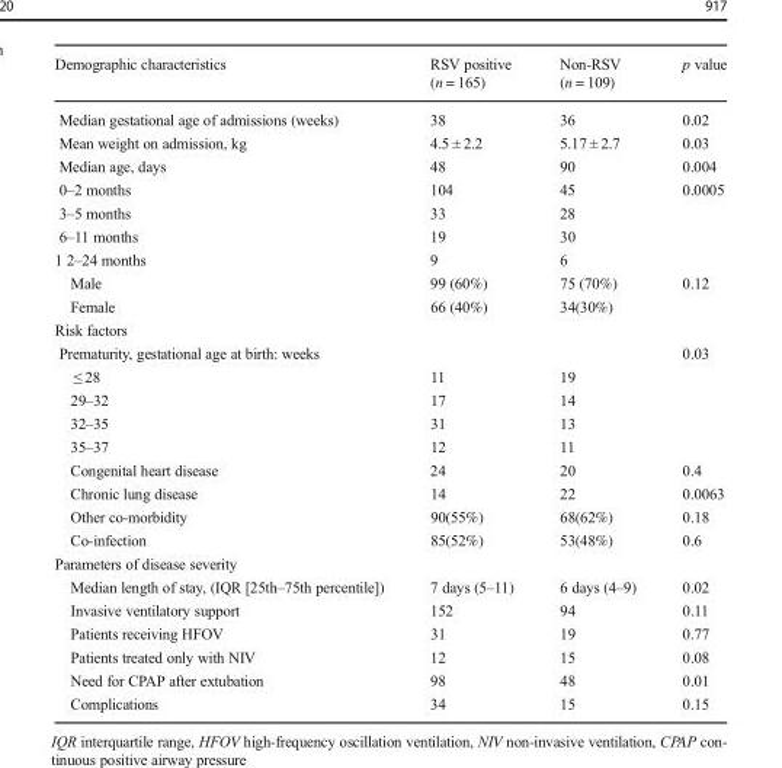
<table><thead><tr><td>Demographic characteristics</td><td>RSV positive (n = 165)</td><td>Non-RSV (n = 109)</td><td>p value</td></tr></thead><tbody><tr><td>Median gestational age of admissions (weeks)</td><td>38</td><td>36</td><td>0.02</td></tr><tr><td>Mean weight on admission, kg</td><td>4.5 ± 2.2</td><td>5.17 ± 2.7</td><td>0.03</td></tr><tr><td>Median age, days</td><td>48</td><td>90</td><td>0.004</td></tr><tr><td>0–2 months</td><td>104</td><td>45</td><td>0.0005</td></tr><tr><td>3–5 months</td><td>33</td><td>28</td><td></td></tr><tr><td>6–11 months</td><td>19</td><td>30</td><td></td></tr><tr><td>1 2–24 months</td><td>9</td><td>6</td><td></td></tr><tr><td>Male</td><td>99 (60%)</td><td>75 (70%)</td><td>0.12</td></tr><tr><td>Female</td><td>66 (40%)</td><td>34(30%)</td><td></td></tr><tr><td colspan="4">Risk factors</td></tr><tr><td>Prematurity, gestational age at birth: weeks</td><td></td><td></td><td>0.03</td></tr><tr><td>≤ 28</td><td>11</td><td>19</td><td></td></tr><tr><td>29–32</td><td>17</td><td>14</td><td></td></tr><tr><td>32–35</td><td>31</td><td>13</td><td></td></tr><tr><td>35–37</td><td>12</td><td>11</td><td></td></tr><tr><td>Congenital heart disease</td><td>24</td><td>20</td><td>0.4</td></tr><tr><td>Chronic lung disease</td><td>14</td><td>22</td><td>0.0063</td></tr><tr><td>Other co-morbidity</td><td>90(55%)</td><td>68(62%)</td><td>0.18</td></tr><tr><td>Co-infection</td><td>85(52%)</td><td>53(48%)</td><td>0.6</td></tr><tr><td colspan="4">Parameters of disease severity</td></tr><tr><td>Median length of stay, (IQR [25th–75th percentile])</td><td>7 days (5–11)</td><td>6 days (4–9)</td><td>0.02</td></tr><tr><td>Invasive ventilatory support</td><td>152</td><td>94</td><td>0.11</td></tr><tr><td>Patients receiving HFOV</td><td>31</td><td>19</td><td>0.77</td></tr><tr><td>Patients treated only with NIV</td><td>12</td><td>15</td><td>0.08</td></tr><tr><td>Need for CPAP after extubation</td><td>98</td><td>48</td><td>0.01</td></tr><tr><td>Complications</td><td>34</td><td>15</td><td>0.15</td></tr></tbody></table>